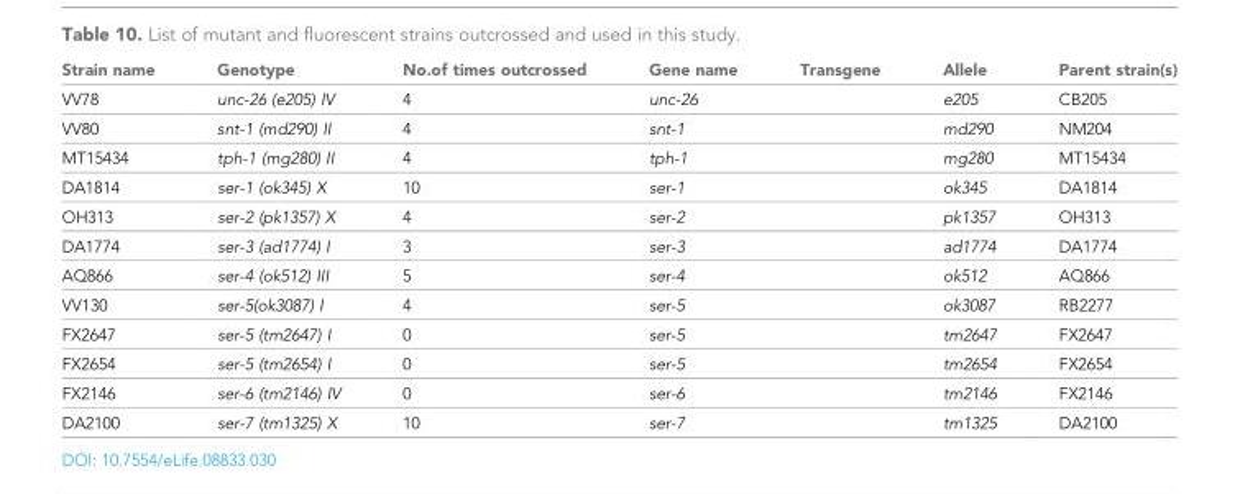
<table><thead><tr><td>Strain name</td><td>Genotype</td><td>No.of times outcrossed</td><td>Gene name</td><td>Transgene</td><td>Allele</td><td>Parent strain(s)</td></tr></thead><tbody><tr><td>VV78</td><td>unc-26 (e205) IV</td><td>4</td><td>unc-26</td><td></td><td>e205</td><td>CB205</td></tr><tr><td>VV80</td><td>snt-1 (md290) II</td><td>4</td><td>snt-1</td><td></td><td>md290</td><td>NM204</td></tr><tr><td>MT15434</td><td>tph-1 (mg280) II</td><td>4</td><td>tph-1</td><td></td><td>mg280</td><td>MT15434</td></tr><tr><td>DA1814</td><td>ser-1 (ok345) X</td><td>10</td><td>ser-1</td><td></td><td>ok345</td><td>DA1814</td></tr><tr><td>OH313</td><td>ser-2 (pk1357) X</td><td>4</td><td>ser-2</td><td></td><td>pk1357</td><td>OH313</td></tr><tr><td>DA1774</td><td>ser-3 (ad1774) I</td><td>3</td><td>ser-3</td><td></td><td>ad1774</td><td>DA1774</td></tr><tr><td>AQ866</td><td>ser-4 (ok512) III</td><td>5</td><td>ser-4</td><td></td><td>ok512</td><td>AQ866</td></tr><tr><td>VV130</td><td>ser-5(ok3087) I</td><td>4</td><td>ser-5</td><td></td><td>ok3087</td><td>RB2277</td></tr><tr><td>FX2647</td><td>ser-5 (tm2647) I</td><td>0</td><td>ser-5</td><td></td><td>tm2647</td><td>FX2647</td></tr><tr><td>FX2654</td><td>ser-5 (tm2654) I</td><td>0</td><td>ser-5</td><td></td><td>tm2654</td><td>FX2654</td></tr><tr><td>FX2146</td><td>ser-6 (tm2146) IV</td><td>0</td><td>ser-6</td><td></td><td>tm2146</td><td>FX2146</td></tr><tr><td>DA2100</td><td>ser-7 (tm1325) X</td><td>10</td><td>ser-7</td><td></td><td>tm1325</td><td>DA2100</td></tr></tbody></table>